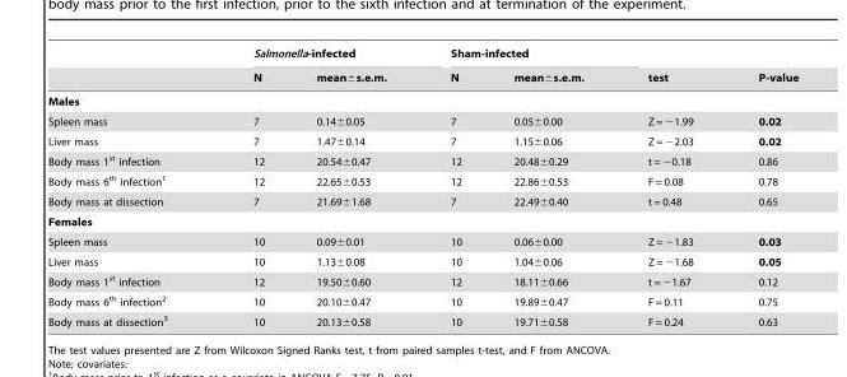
<table><thead><tr><td rowspan="2"></td><td colspan="2">Salmonella-infected</td><td colspan="2">Sham-infected</td><td rowspan="2">test</td><td rowspan="2">P-value</td></tr><tr><td>N</td><td>mean±s.e.m.</td><td>N</td><td>mean±s.e.m.</td></tr></thead><tbody><tr><td colspan="7">Males</td></tr><tr><td>Spleen mass</td><td>7</td><td>0.14±0.05</td><td>7</td><td>0.05±0.00</td><td>Z = −1.99</td><td>0.02</td></tr><tr><td>Liver mass</td><td>7</td><td>1.47±0.14</td><td>7</td><td>1.15±0.06</td><td>Z = −2.03</td><td>0.02</td></tr><tr><td>Body mass 1<sup>st</sup> infection</td><td>12</td><td>20.54±0.47</td><td>12</td><td>20.48±0.29</td><td>t = −0.18</td><td>0.86</td></tr><tr><td>Body mass 6<sup>th</sup> infection<sup>1</sup></td><td>12</td><td>22.65±0.53</td><td>12</td><td>22.86±0.53</td><td>F = 0.08</td><td>0.78</td></tr><tr><td>Body mass at dissection</td><td>7</td><td>21.69±1.68</td><td>7</td><td>22.49±0.40</td><td>t = 0.48</td><td>0.65</td></tr><tr><td colspan="7">Females</td></tr><tr><td>Spleen mass</td><td>10</td><td>0.09±0.01</td><td>10</td><td>0.06±0.00</td><td>Z = −1.83</td><td>0.03</td></tr><tr><td>Liver mass</td><td>10</td><td>1.13±0.08</td><td>10</td><td>1.04±0.06</td><td>Z = −1.68</td><td>0.05</td></tr><tr><td>Body mass 1<sup>st</sup> infection</td><td>12</td><td>19.50±0.60</td><td>12</td><td>18.11±0.66</td><td>t = −1.67</td><td>0.12</td></tr><tr><td>Body mass 6<sup>th</sup> infection<sup>2</sup></td><td>10</td><td>20.10±0.47</td><td>10</td><td>19.89±0.47</td><td>F = 0.11</td><td>0.75</td></tr><tr><td>Body mass at dissection<sup>3</sup></td><td>10</td><td>20.13±0.58</td><td>10</td><td>19.71±0.58</td><td>F = 0.24</td><td>0.63</td></tr></tbody></table>